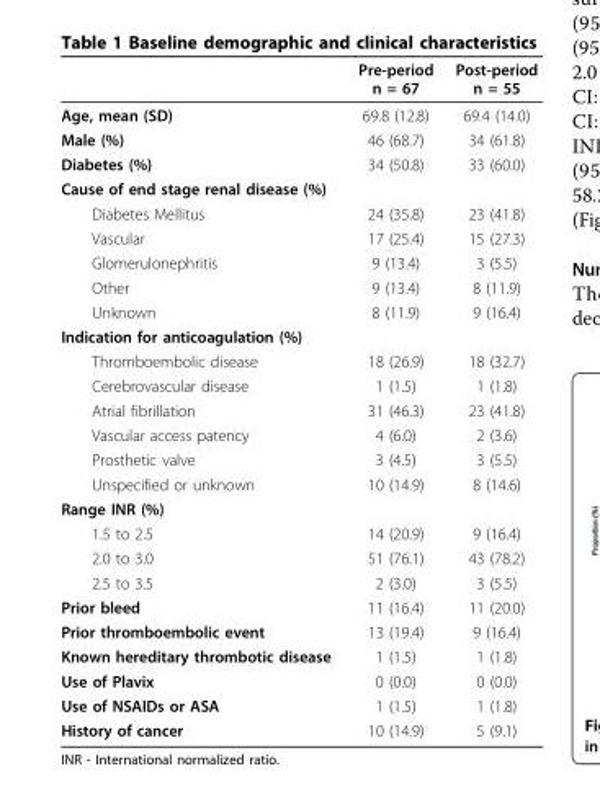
<table><thead><tr><td></td><td>Pre-period n = 67</td><td>Post-period n = 55</td></tr></thead><tbody><tr><td>Age, mean (SD)</td><td>69.8 (12.8)</td><td>69.4 (14.0)</td></tr><tr><td>Male (%)</td><td>46 (68.7)</td><td>34 (61.8)</td></tr><tr><td>Diabetes (%)</td><td>34 (50.8)</td><td>33 (60.0)</td></tr><tr><td colspan="3">Cause of end stage renal disease (%)</td></tr><tr><td>Diabetes Mellitus</td><td>24 (35.8)</td><td>23 (41.8)</td></tr><tr><td>Vascular</td><td>17 (25.4)</td><td>15 (27.3)</td></tr><tr><td>Glomerulonephritis</td><td>9 (13.4)</td><td>3 (5.5)</td></tr><tr><td>Other</td><td>9 (13.4)</td><td>8 (11.9)</td></tr><tr><td>Unknown</td><td>8 (11.9)</td><td>9 (16.4)</td></tr><tr><td colspan="3">Indication for anticoagulation (%)</td></tr><tr><td>Thromboembolic disease</td><td>18 (26.9)</td><td>18 (32.7)</td></tr><tr><td>Cerebrovascular disease</td><td>1 (1.5)</td><td>1 (1.8)</td></tr><tr><td>Atrial fibrillation</td><td>31 (46.3)</td><td>23 (41.8)</td></tr><tr><td>Vascular access patency</td><td>4 (6.0)</td><td>2 (3.6)</td></tr><tr><td>Prosthetic valve</td><td>3 (4.5)</td><td>3 (5.5)</td></tr><tr><td>Unspecified or unknown</td><td>10 (14.9)</td><td>8 (14.6)</td></tr><tr><td colspan="3">Range INR (%)</td></tr><tr><td>1.5 to 2.5</td><td>14 (20.9)</td><td>9 (16.4)</td></tr><tr><td>2.0 to 3.0</td><td>51 (76.1)</td><td>43 (78.2)</td></tr><tr><td>2.5 to 3.5</td><td>2 (3.0)</td><td>3 (5.5)</td></tr><tr><td>Prior bleed</td><td>11 (16.4)</td><td>11 (20.0)</td></tr><tr><td>Prior thromboembolic event</td><td>13 (19.4)</td><td>9 (16.4)</td></tr><tr><td>Known hereditary thrombotic disease</td><td>1 (1.5)</td><td>1 (1.8)</td></tr><tr><td>Use of Plavix</td><td>0 (0.0)</td><td>0 (0.0)</td></tr><tr><td>Use of NSAIDs or ASA</td><td>1 (1.5)</td><td>1 (1.8)</td></tr><tr><td>History of cancer</td><td>10 (14.9)</td><td>5 (9.1)</td></tr></tbody></table>